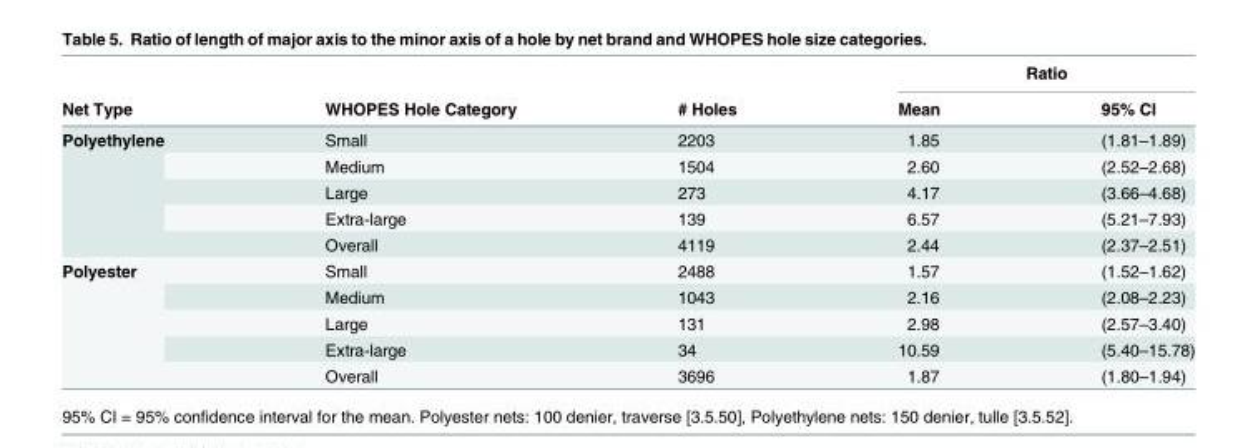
<table><thead><tr><td rowspan="2">Net Type</td><td rowspan="2">WHOPES Hole Category</td><td rowspan="2"># Holes</td><td colspan="2">Ratio</td></tr><tr><td>Mean</td><td>95% CI</td></tr></thead><tbody><tr><td rowspan="5">Polyethylene</td><td>Small</td><td>2203</td><td>1.85</td><td>(1.81–1.89)</td></tr><tr><td>Medium</td><td>1504</td><td>2.60</td><td>(2.52–2.68)</td></tr><tr><td>Large</td><td>273</td><td>4.17</td><td>(3.66–4.68)</td></tr><tr><td>Extra-large</td><td>139</td><td>6.57</td><td>(5.21–7.93)</td></tr><tr><td>Overall</td><td>4119</td><td>2.44</td><td>(2.37–2.51)</td></tr><tr><td rowspan="5">Polyester</td><td>Small</td><td>2488</td><td>1.57</td><td>(1.52–1.62)</td></tr><tr><td>Medium</td><td>1043</td><td>2.16</td><td>(2.08–2.23)</td></tr><tr><td>Large</td><td>131</td><td>2.98</td><td>(2.57–3.40)</td></tr><tr><td>Extra-large</td><td>34</td><td>10.59</td><td>(5.40–15.78)</td></tr><tr><td>Overall</td><td>3696</td><td>1.87</td><td>(1.80–1.94)</td></tr></tbody></table>